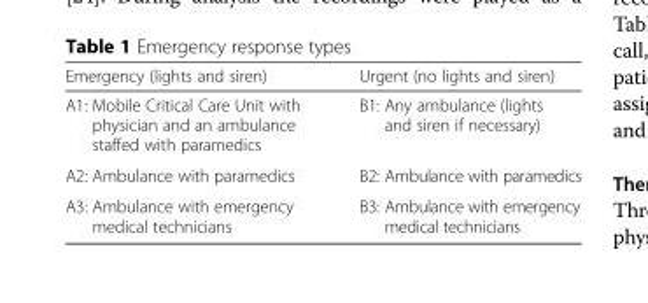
<table><thead><tr><td>Emergency (lights and siren)</td><td>Urgent (no lights and siren)</td></tr></thead><tbody><tr><td>A1: Mobile Critical Care Unit with physician and an ambulance staffed with paramedics</td><td>B1: Any ambulance (lights and siren if necessary)</td></tr><tr><td>A2: Ambulance with paramedics</td><td>B2: Ambulance with paramedics</td></tr><tr><td>A3: Ambulance with emergency medical technicians</td><td>B3: Ambulance with emergency medical technicians</td></tr></tbody></table>